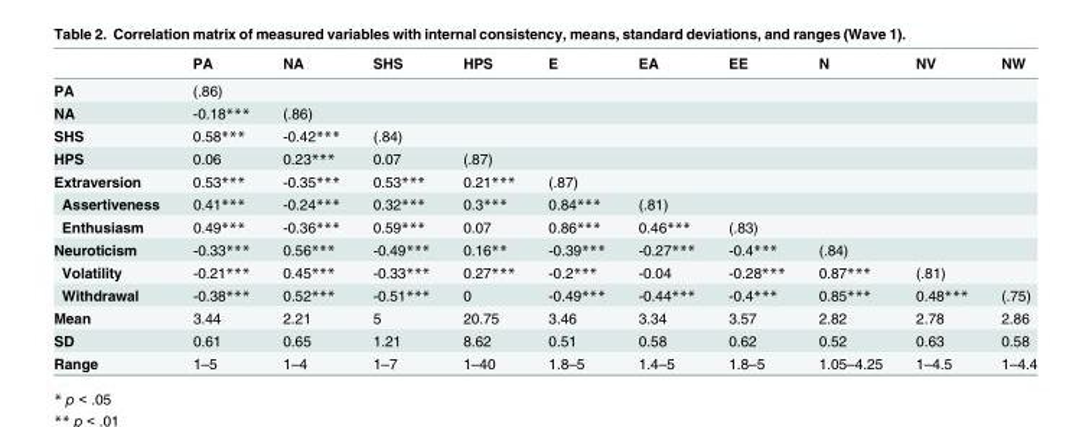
<table><thead><tr><td></td><td>PA</td><td>NA</td><td>SHS</td><td>HPS</td><td>E</td><td>EA</td><td>EE</td><td>N</td><td>NV</td><td>NW</td></tr></thead><tbody><tr><td>PA</td><td>(.86)</td><td></td><td></td><td></td><td></td><td></td><td></td><td></td><td></td><td></td></tr><tr><td>NA</td><td>-0.18***</td><td>(.86)</td><td></td><td></td><td></td><td></td><td></td><td></td><td></td><td></td></tr><tr><td>SHS</td><td>0.58***</td><td>-0.42***</td><td>(.84)</td><td></td><td></td><td></td><td></td><td></td><td></td><td></td></tr><tr><td>HPS</td><td>0.06</td><td>0.23***</td><td>0.07</td><td>(.87)</td><td></td><td></td><td></td><td></td><td></td><td></td></tr><tr><td>Extraversion</td><td>0.53***</td><td>-0.35***</td><td>0.53***</td><td>0.21***</td><td>(.87)</td><td></td><td></td><td></td><td></td><td></td></tr><tr><td>Assertiveness</td><td>0.41***</td><td>-0.24***</td><td>0.32***</td><td>0.3***</td><td>0.84***</td><td>(.81)</td><td></td><td></td><td></td><td></td></tr><tr><td>Enthusiasm</td><td>0.49***</td><td>-0.36***</td><td>0.59***</td><td>0.07</td><td>0.86***</td><td>0.46***</td><td>(.83)</td><td></td><td></td><td></td></tr><tr><td>Neuroticism</td><td>-0.33***</td><td>0.56***</td><td>-0.49***</td><td>0.16**</td><td>-0.39***</td><td>-0.27***</td><td>-0.4***</td><td>(.84)</td><td></td><td></td></tr><tr><td>Volatility</td><td>-0.21***</td><td>0.45***</td><td>-0.33***</td><td>0.27***</td><td>-0.2***</td><td>-0.04</td><td>-0.28***</td><td>0.87***</td><td>(.81)</td><td></td></tr><tr><td>Withdrawal</td><td>-0.38***</td><td>0.52***</td><td>-0.51***</td><td>0</td><td>-0.49***</td><td>-0.44***</td><td>-0.4***</td><td>0.85***</td><td>0.48***</td><td>(.75)</td></tr><tr><td>Mean</td><td>3.44</td><td>2.21</td><td>5</td><td>20.75</td><td>3.46</td><td>3.34</td><td>3.57</td><td>2.82</td><td>2.78</td><td>2.86</td></tr><tr><td>SD</td><td>0.61</td><td>0.65</td><td>1.21</td><td>8.62</td><td>0.51</td><td>0.58</td><td>0.62</td><td>0.52</td><td>0.63</td><td>0.58</td></tr><tr><td>Range</td><td>1–5</td><td>1–4</td><td>1–7</td><td>1–40</td><td>1.8–5</td><td>1.4–5</td><td>1.8–5</td><td>1.05–4.25</td><td>1–4.5</td><td>1–4.4</td></tr></tbody></table>